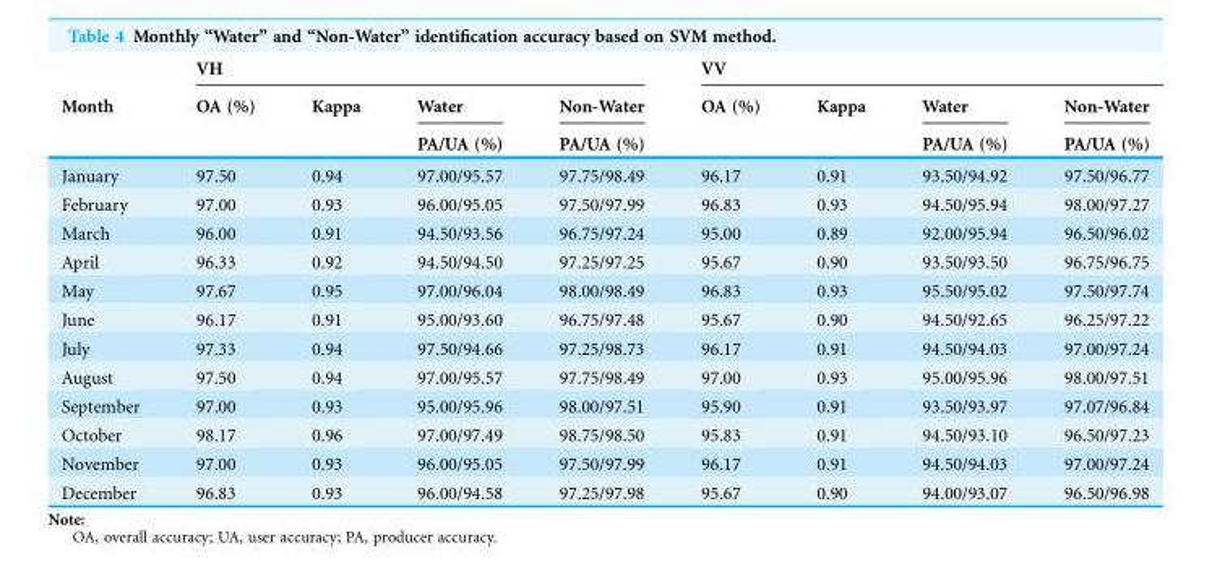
<table><thead><tr><td rowspan="3">Month</td><td colspan="4">VH</td><td colspan="4">VV</td></tr><tr><td rowspan="2">OA (%)</td><td rowspan="2">Kappa</td><td rowspan="2">Water PA/UA (%)</td><td rowspan="2">Non-Water PA/UA (%)</td><td rowspan="2">OA (%)</td><td rowspan="2">Kappa</td><td rowspan="2">Water PA/UA (%)</td><td rowspan="2">Non-Water PA/UA (%)</td></tr><tr></tr></thead><tbody><tr><td>January</td><td>97.50</td><td>0.94</td><td>97.00/95.57</td><td>97.75/98.49</td><td>96.17</td><td>0.91</td><td>93.50/94.92</td><td>97.50/96.77</td></tr><tr><td>February</td><td>97.00</td><td>0.93</td><td>96.00/95.05</td><td>97.50/97.99</td><td>96.83</td><td>0.93</td><td>94.50/95.94</td><td>98.00/97.27</td></tr><tr><td>March</td><td>96.00</td><td>0.91</td><td>94.50/93.56</td><td>96.75/97.24</td><td>95.00</td><td>0.89</td><td>92.00/95.94</td><td>96.50/96.02</td></tr><tr><td>April</td><td>96.33</td><td>0.92</td><td>94.50/94.50</td><td>97.25/97.25</td><td>95.67</td><td>0.90</td><td>93.50/93.50</td><td>96.75/96.75</td></tr><tr><td>May</td><td>97.67</td><td>0.95</td><td>97.00/96.04</td><td>98.00/98.49</td><td>96.83</td><td>0.93</td><td>95.50/95.02</td><td>97.50/97.74</td></tr><tr><td>June</td><td>96.17</td><td>0.91</td><td>95.00/93.60</td><td>96.75/97.48</td><td>95.67</td><td>0.90</td><td>94.50/92.65</td><td>96.25/97.22</td></tr><tr><td>July</td><td>97.33</td><td>0.94</td><td>97.50/94.66</td><td>97.25/98.73</td><td>96.17</td><td>0.91</td><td>94.50/94.03</td><td>97.00/97.24</td></tr><tr><td>August</td><td>97.50</td><td>0.94</td><td>97.00/95.57</td><td>97.75/98.49</td><td>97.00</td><td>0.93</td><td>95.00/95.96</td><td>98.00/97.51</td></tr><tr><td>September</td><td>97.00</td><td>0.93</td><td>95.00/95.96</td><td>98.00/97.51</td><td>95.90</td><td>0.91</td><td>93.50/93.97</td><td>97.07/96.84</td></tr><tr><td>October</td><td>98.17</td><td>0.96</td><td>97.00/97.49</td><td>98.75/98.50</td><td>95.83</td><td>0.91</td><td>94.50/93.10</td><td>96.50/97.23</td></tr><tr><td>November</td><td>97.00</td><td>0.93</td><td>96.00/95.05</td><td>97.50/97.99</td><td>96.17</td><td>0.91</td><td>94.50/94.03</td><td>97.00/97.24</td></tr><tr><td>December</td><td>96.83</td><td>0.93</td><td>96.00/94.58</td><td>97.25/97.98</td><td>95.67</td><td>0.90</td><td>94.00/93.07</td><td>96.50/96.98</td></tr></tbody></table>